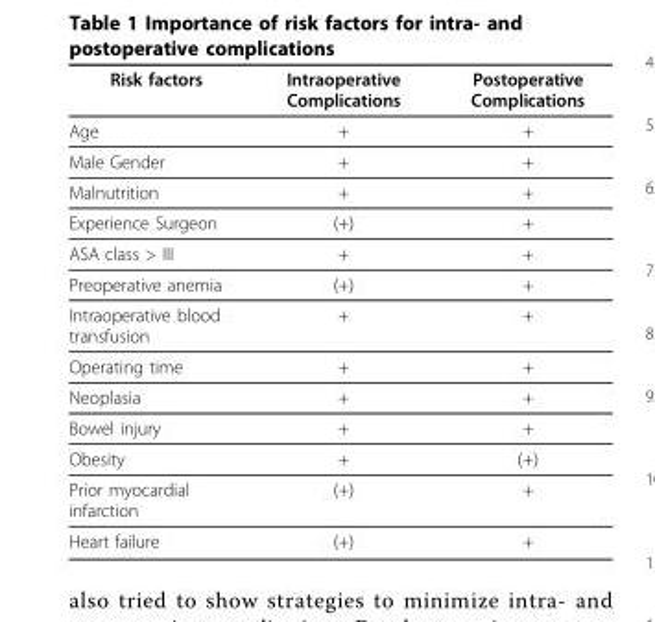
<table><thead><tr><td>Risk factors</td><td>Intraoperative Complications</td><td>Postoperative Complications</td></tr></thead><tbody><tr><td>Age</td><td>+</td><td>+</td></tr><tr><td>Male Gender</td><td>+</td><td>+</td></tr><tr><td>Malnutrition</td><td>+</td><td>+</td></tr><tr><td>Experience Surgeon</td><td>(+)</td><td>+</td></tr><tr><td>ASA class &gt; III</td><td>+</td><td>+</td></tr><tr><td>Preoperative anemia</td><td>(+)</td><td>+</td></tr><tr><td>Intraoperative blood transfusion</td><td>+</td><td>+</td></tr><tr><td>Operating time</td><td>+</td><td>+</td></tr><tr><td>Neoplasia</td><td>+</td><td>+</td></tr><tr><td>Bowel injury</td><td>+</td><td>+</td></tr><tr><td>Obesity</td><td>+</td><td>(+)</td></tr><tr><td>Prior myocardial infarction</td><td>(+)</td><td>+</td></tr><tr><td>Heart failure</td><td>(+)</td><td>+</td></tr></tbody></table>